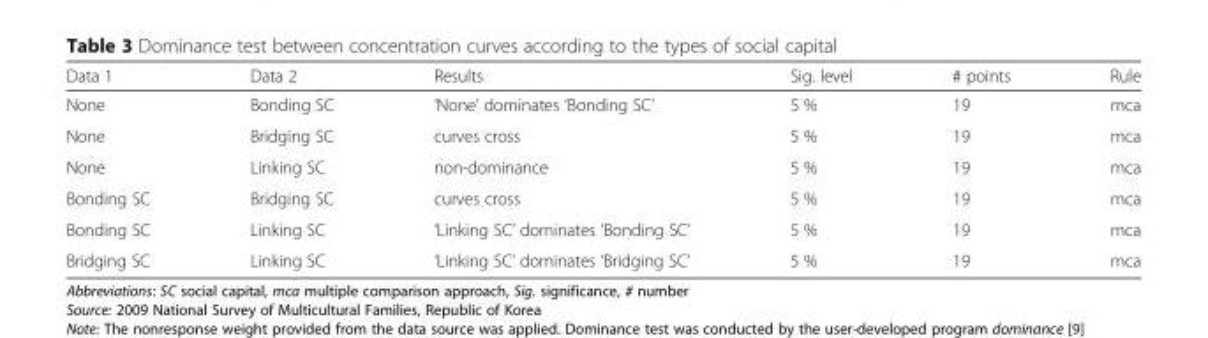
<table><thead><tr><td>Data 1</td><td>Data 2</td><td>Results</td><td>Sig. level</td><td># points</td><td>Rule</td></tr></thead><tbody><tr><td>None</td><td>Bonding SC</td><td>‘None’ dominates ‘Bonding SC’</td><td>5 %</td><td>19</td><td>mca</td></tr><tr><td>None</td><td>Bridging SC</td><td>curves cross</td><td>5 %</td><td>19</td><td>mca</td></tr><tr><td>None</td><td>Linking SC</td><td>non-dominance</td><td>5 %</td><td>19</td><td>mca</td></tr><tr><td>Bonding SC</td><td>Bridging SC</td><td>curves cross</td><td>5 %</td><td>19</td><td>mca</td></tr><tr><td>Bonding SC</td><td>Linking SC</td><td>‘Linking SC’ dominates ‘Bonding SC’</td><td>5 %</td><td>19</td><td>mca</td></tr><tr><td>Bridging SC</td><td>Linking SC</td><td>‘Linking SC’ dominates ‘Bridging SC’</td><td>5 %</td><td>19</td><td>mca</td></tr></tbody></table>